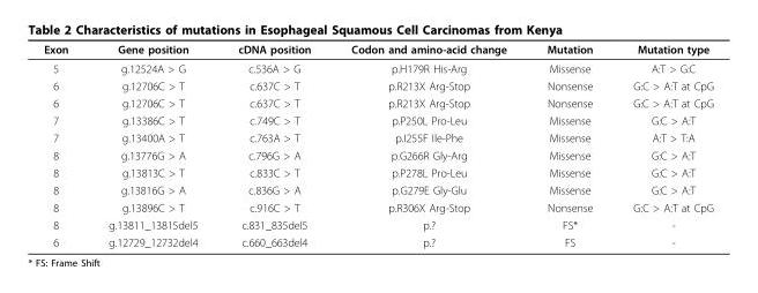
<table><thead><tr><td>Exon</td><td>Gene position</td><td>cDNA position</td><td>Codon and amino-acid change</td><td>Mutation</td><td>Mutation type</td></tr></thead><tbody><tr><td>5</td><td>g.12524A &gt; G</td><td>c.536A &gt; G</td><td>p.H179R His-Arg</td><td>Missense</td><td>A:T &gt; G:C</td></tr><tr><td>6</td><td>g.12706C &gt; T</td><td>c.637C &gt; T</td><td>p.R213X Arg-Stop</td><td>Nonsense</td><td>G:C &gt; A:T at CpG</td></tr><tr><td>6</td><td>g.12706C &gt; T</td><td>c.637C &gt; T</td><td>p.R213X Arg-Stop</td><td>Nonsense</td><td>G:C &gt; A:T at CpG</td></tr><tr><td>7</td><td>g.13386C &gt; T</td><td>c.749C &gt; T</td><td>p.P250L Pro-Leu</td><td>Missense</td><td>G:C &gt; A:T</td></tr><tr><td>7</td><td>g.13400A &gt; T</td><td>c.763A &gt; T</td><td>p.I255F Ile-Phe</td><td>Missense</td><td>A:T &gt; T:A</td></tr><tr><td>8</td><td>g.13776G &gt; A</td><td>c.796G &gt; A</td><td>p.G266R Gly-Arg</td><td>Missense</td><td>G:C &gt; A:T</td></tr><tr><td>8</td><td>g.13813C &gt; T</td><td>c.833C &gt; T</td><td>p.P278L Pro-Leu</td><td>Missense</td><td>G:C &gt; A:T</td></tr><tr><td>8</td><td>g.13816G &gt; A</td><td>c.836G &gt; A</td><td>p.G279E Gly-Glu</td><td>Missense</td><td>G:C &gt; A:T</td></tr><tr><td>8</td><td>g.13896C &gt; T</td><td>c.916C &gt; T</td><td>p.R306X Arg-Stop</td><td>Nonsense</td><td>G:C &gt; A:T at CpG</td></tr><tr><td>8</td><td>g.13811_13815del5</td><td>c.831_835del5</td><td>p.?</td><td>FS*</td><td>-</td></tr><tr><td>6</td><td>g.12729_12732del4</td><td>c.660_663del4</td><td>p.?</td><td>FS</td><td>-</td></tr></tbody></table>